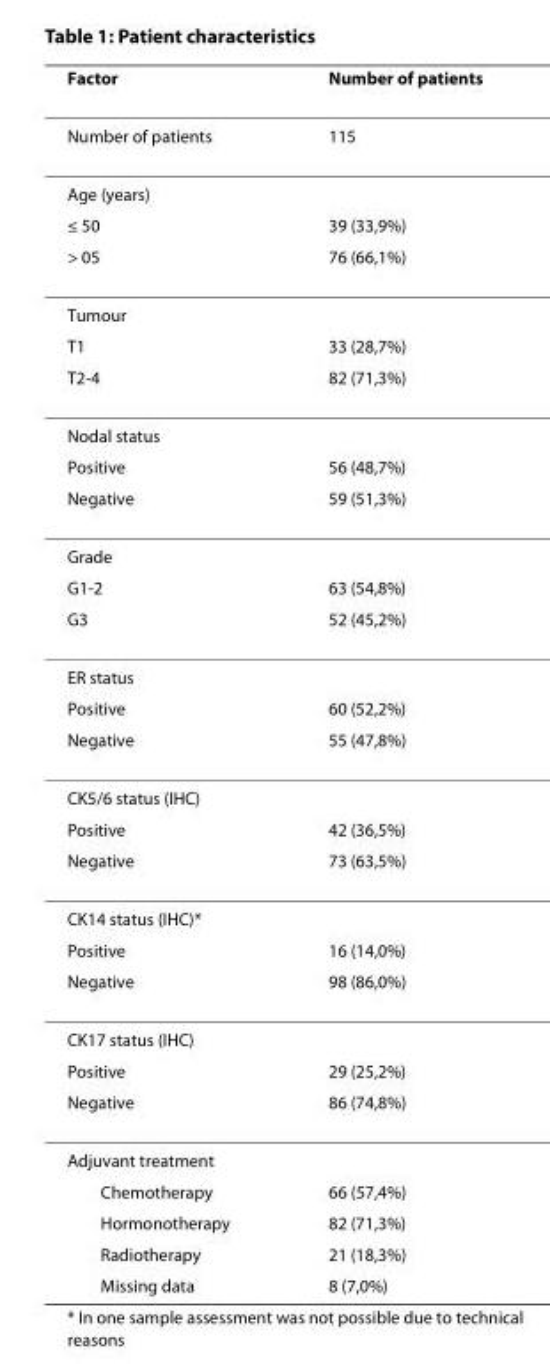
<table><thead><tr><td>Factor</td><td>Number of patients</td></tr></thead><tbody><tr><td>Number of patients</td><td>115</td></tr><tr><td colspan="2">Age (years)</td></tr><tr><td>≤ 50</td><td>39 (33,9%)</td></tr><tr><td>&gt; 05</td><td>76 (66,1%)</td></tr><tr><td colspan="2">Tumour</td></tr><tr><td>T1</td><td>33 (28,7%)</td></tr><tr><td>T2-4</td><td>82 (71,3%)</td></tr><tr><td colspan="2">Nodal status</td></tr><tr><td>Positive</td><td>56 (48,7%)</td></tr><tr><td>Negative</td><td>59 (51,3%)</td></tr><tr><td colspan="2">Grade</td></tr><tr><td>G1-2</td><td>63 (54,8%)</td></tr><tr><td>G3</td><td>52 (45,2%)</td></tr><tr><td colspan="2">ER status</td></tr><tr><td>Positive</td><td>60 (52,2%)</td></tr><tr><td>Negative</td><td>55 (47,8%)</td></tr><tr><td colspan="2">CK5/6 status (IHC)</td></tr><tr><td>Positive</td><td>42 (36,5%)</td></tr><tr><td>Negative</td><td>73 (63,5%)</td></tr><tr><td colspan="2">CK14 status (IHC)*</td></tr><tr><td>Positive</td><td>16 (14,0%)</td></tr><tr><td>Negative</td><td>98 (86,0%)</td></tr><tr><td colspan="2">CK17 status (IHC)</td></tr><tr><td>Positive</td><td>29 (25,2%)</td></tr><tr><td>Negative</td><td>86 (74,8%)</td></tr><tr><td colspan="2">Adjuvant treatment</td></tr><tr><td>Chemotherapy</td><td>66 (57,4%)</td></tr><tr><td>Hormonotherapy</td><td>82 (71,3%)</td></tr><tr><td>Radiotherapy</td><td>21 (18,3%)</td></tr><tr><td>Missing data</td><td>8 (7,0%)</td></tr></tbody></table>